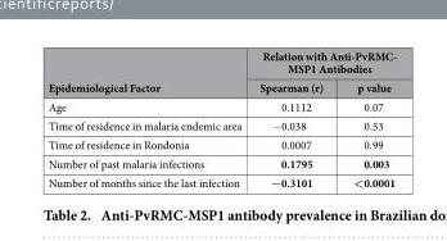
<table><thead><tr><td rowspan="2">Epidemiological Factor</td><td colspan="2">Relation with Anti-PvRMC- MSP1 Antibodies</td></tr><tr><td>Spearman (r)</td><td>p value</td></tr></thead><tbody><tr><td>Age</td><td>0.1112</td><td>0.07</td></tr><tr><td>Time of residence in malaria endemic area</td><td>− 0.038</td><td>0.53</td></tr><tr><td>Time of residence in Rondonia</td><td>0.0007</td><td>0.99</td></tr><tr><td>Number of past malaria infections</td><td>0.1795</td><td>0.003</td></tr><tr><td>Number of months since the last infection</td><td>−0.3101</td><td>&lt;0.0001</td></tr></tbody></table>